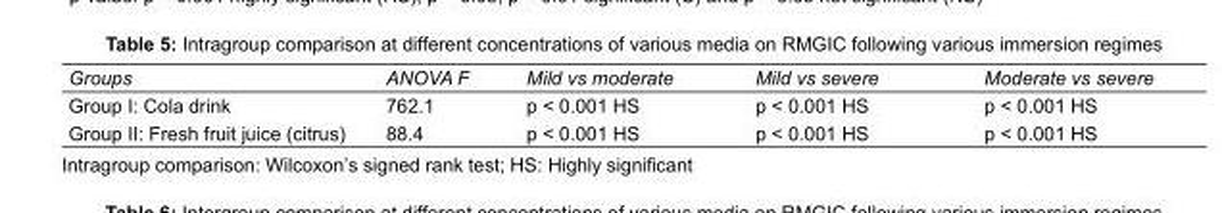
<table><tbody><tr><td>Groups</td><td>ANOVA F</td><td>Mild vs moderate</td><td>Mild vs severe</td><td>Moderate vs severe</td></tr><tr><td>Group I: Cola drink</td><td>762.1</td><td>p &lt; 0.001 HS</td><td>p &lt; 0.001 HS</td><td>p &lt; 0.001 HS</td></tr><tr><td>Group II: Fresh fruit juice (citrus)</td><td>88.4</td><td>p &lt; 0.001 HS</td><td>p &lt; 0.001 HS</td><td>p &lt; 0.001 HS</td></tr></tbody></table>